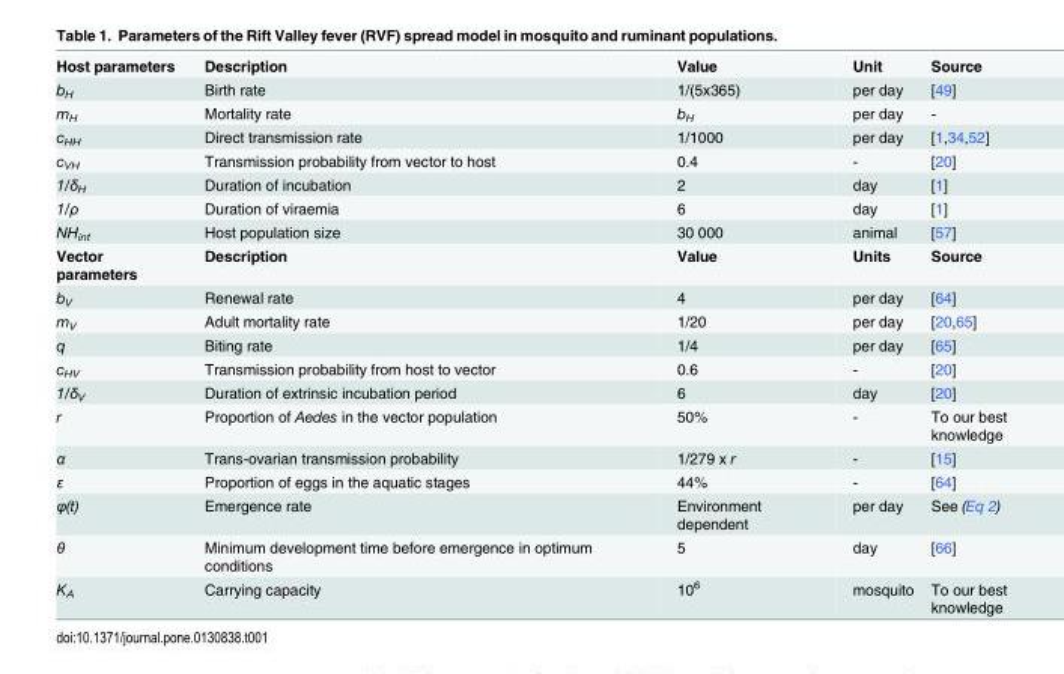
<table><tbody><tr><td>Host parameters</td><td>Description</td><td>Value</td><td>Unit</td><td>Source</td></tr><tr><td>b<sub>H</sub></td><td>Birth rate</td><td>1/(5x365)</td><td>per day</td><td>[49]</td></tr><tr><td>m<sub>H</sub></td><td>Mortality rate</td><td>b<sub>H</sub></td><td>per day</td><td>-</td></tr><tr><td>c<sub>HH</sub></td><td>Direct transmission rate</td><td>1/1000</td><td>per day</td><td>[1,34,52]</td></tr><tr><td>c<sub>VH</sub></td><td>Transmission probability from vector to host</td><td>0.4</td><td>-</td><td>[20]</td></tr><tr><td>1/δ<sub>H</sub></td><td>Duration of incubation</td><td>2</td><td>day</td><td>[1]</td></tr><tr><td>1/ρ</td><td>Duration of viraemia</td><td>6</td><td>day</td><td>[1]</td></tr><tr><td>NH<sub>int</sub></td><td>Host population size</td><td>30 000</td><td>animal</td><td>[57]</td></tr><tr><td>Vector parameters</td><td>Description</td><td>Value</td><td>Units</td><td>Source</td></tr><tr><td>b<sub>V</sub></td><td>Renewal rate</td><td>4</td><td>per day</td><td>[64]</td></tr><tr><td>m<sub>V</sub></td><td>Adult mortality rate</td><td>1/20</td><td>per day</td><td>[20,65]</td></tr><tr><td>q</td><td>Biting rate</td><td>1/4</td><td>per day</td><td>[65]</td></tr><tr><td>c<sub>HV</sub></td><td>Transmission probability from host to vector</td><td>0.6</td><td>-</td><td>[20]</td></tr><tr><td>1/δ<sub>V</sub></td><td>Duration of extrinsic incubation period</td><td>6</td><td>day</td><td>[20]</td></tr><tr><td>r</td><td>Proportion of Aedes in the vector population</td><td>50%</td><td>-</td><td>To our best knowledge</td></tr><tr><td>α</td><td>Trans-ovarian transmission probability</td><td>1/279 x r</td><td>-</td><td>[15]</td></tr><tr><td>ε</td><td>Proportion of eggs in the aquatic stages</td><td>44%</td><td>-</td><td>[64]</td></tr><tr><td>φ(t)</td><td>Emergence rate</td><td>Environment dependent</td><td>per day</td><td>See (Eq 2)</td></tr><tr><td>θ</td><td>Minimum development time before emergence in optimum conditions</td><td>5</td><td>day</td><td>[66]</td></tr><tr><td>K<sub>A</sub></td><td>Carrying capacity</td><td>10<sup>6</sup></td><td>mosquito</td><td>To our best knowledge</td></tr></tbody></table>